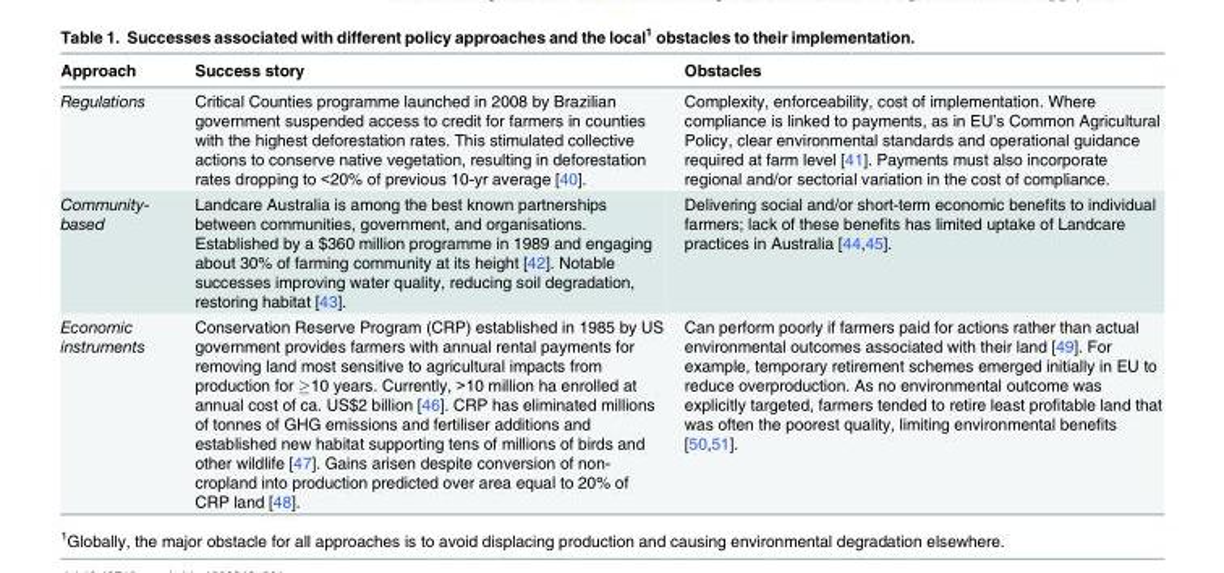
<table><thead><tr><td>Approach</td><td>Success story</td><td>Obstacles</td></tr></thead><tbody><tr><td>Regulations</td><td>Critical Counties programme launched in 2008 by Brazilian government suspended access to credit for farmers in counties with the highest deforestation rates. This stimulated collective actions to conserve native vegetation, resulting in deforestation rates dropping to &lt;20% of previous 10-yr average [40].</td><td>Complexity, enforceability, cost of implementation. Where compliance is linked to payments, as in EU’s Common Agricultural Policy, clear environmental standards and operational guidance required at farm level [41]. Payments must also incorporate regional and/or sectorial variation in the cost of compliance.</td></tr><tr><td>Community- based</td><td>Landcare Australia is among the best known partnerships between communities, government, and organisations. Established by a $360 million programme in 1989 and engaging about 30% of farming community at its height [42]. Notable successes improving water quality, reducing soil degradation, restoring habitat [43].</td><td>Delivering social and/or short-term economic benefits to individual farmers; lack of these benefits has limited uptake of Landcare practices in Australia [44,45].</td></tr><tr><td>Economic instruments</td><td>Conservation Reserve Program (CRP) established in 1985 by US government provides farmers with annual rental payments for removing land most sensitive to agricultural impacts from production for ≥10 years. Currently, &gt;10 million ha enrolled at annual cost of ca. US$2 billion [46]. CRP has eliminated millions of tonnes of GHG emissions and fertiliser additions and established new habitat supporting tens of millions of birds and other wildlife [47]. Gains arisen despite conversion of non- cropland into production predicted over area equal to 20% of CRP land [48].</td><td>Can perform poorly if farmers paid for actions rather than actual environmental outcomes associated with their land [49]. For example, temporary retirement schemes emerged initially in EU to reduce overproduction. As no environmental outcome was explicitly targeted, farmers tended to retire least profitable land that was often the poorest quality, limiting environmental benefits [50,51].</td></tr></tbody></table>